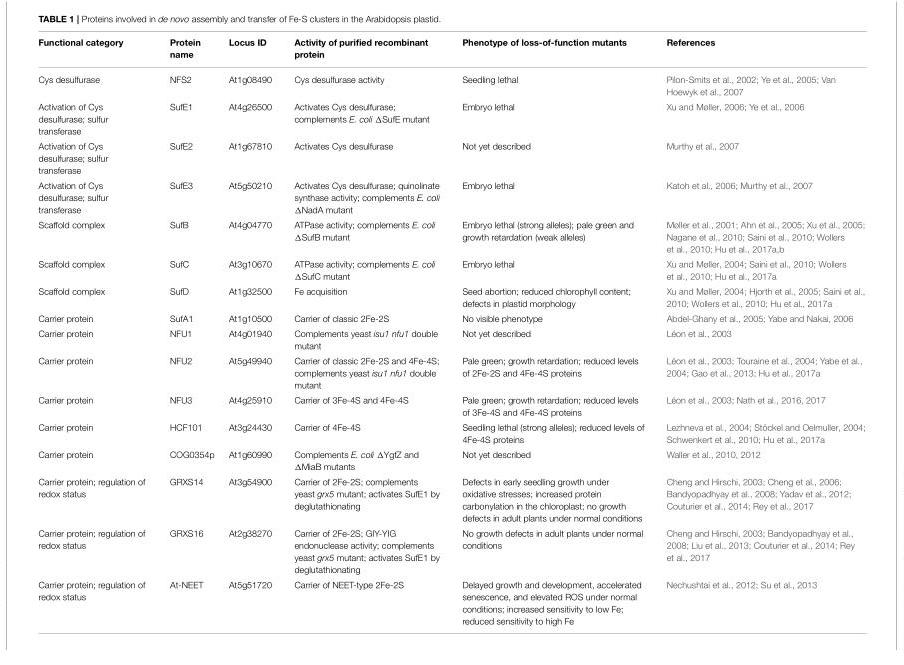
<table><thead><tr><td>Functional category</td><td>Protein name</td><td>Locus ID</td><td>Activity of purified recombinant protein</td><td>Phenotype of loss-of-function mutants</td><td>References</td></tr></thead><tbody><tr><td>Cys desulfurase</td><td>NFS2</td><td>At1g08490</td><td>Cys desulfurase activity</td><td>Seedling lethal</td><td>Pilon-Smits et al., 2002; Ye et al., 2005; Van Hoewyk et al., 2007</td></tr><tr><td>Activation of Cys desulfurase; sulfur transferase</td><td>SufE1</td><td>At4g26500</td><td>Activates Cys desulfurase; complements E. coli ΔSufE mutant</td><td>Embryo lethal</td><td>Xu and Møller, 2006; Ye et al., 2006</td></tr><tr><td>Activation of Cys desulfurase; sulfur transferase</td><td>SufE2</td><td>At1g67810</td><td>Activates Cys desulfurase</td><td>Not yet described</td><td>Murthy et al., 2007</td></tr><tr><td>Activation of Cys desulfurase; sulfur transferase</td><td>SufE3</td><td>At5g50210</td><td>Activates Cys desulfurase; quinolinate synthase activity; complements E. coli ΔNadA mutant</td><td>Embryo lethal</td><td>Katoh et al., 2006; Murthy et al., 2007</td></tr><tr><td>Scaffold complex</td><td>SufB</td><td>At4g04770</td><td>ATPase activity; complements E. coli ΔSufB mutant</td><td>Embryo lethal (strong alleles); pale green and growth retardation (weak alleles)</td><td>Møller et al., 2001; Ahn et al., 2005; Xu et al., 2005; Nagane et al., 2010; Saini et al., 2010; Wollers et al., 2010; Hu et al., 2017a,b</td></tr><tr><td>Scaffold complex</td><td>SufC</td><td>At3g10670</td><td>ATPase activity; complements E. coli ΔSufC mutant</td><td>Embryo lethal</td><td>Xu and Møller, 2004; Saini et al., 2010; Wollers et al., 2010; Hu et al., 2017a</td></tr><tr><td>Scaffold complex</td><td>SufD</td><td>At1g32500</td><td>Fe acquisition</td><td>Seed abortion; reduced chlorophyll content; defects in plastid morphology</td><td>Xu and Møller, 2004; Hjorth et al., 2005; Saini et al., 2010; Wollers et al., 2010; Hu et al., 2017a</td></tr><tr><td>Carrier protein</td><td>SufA1</td><td>At1g10500</td><td>Carrier of classic 2Fe-2S</td><td>No visible phenotype</td><td>Abdel-Ghany et al., 2005; Yabe and Nakai, 2006</td></tr><tr><td>Carrier protein</td><td>NFU1</td><td>At4g01940</td><td>Complements yeast isu1 nfu1 double mutant</td><td>Not yet described</td><td>Léon et al., 2003</td></tr><tr><td>Carrier protein</td><td>NFU2</td><td>At5g49940</td><td>Carrier of classic 2Fe-2S and 4Fe-4S; complements yeast isu1 nfu1 double mutant</td><td>Pale green; growth retardation; reduced levels of 2Fe-2S and 4Fe-4S proteins</td><td>Léon et al., 2003; Touraine et al., 2004; Yabe et al., 2004; Gao et al., 2013; Hu et al., 2017a</td></tr><tr><td>Carrier protein</td><td>NFU3</td><td>At4g25910</td><td>Carrier of 3Fe-4S and 4Fe-4S</td><td>Pale green; growth retardation; reduced levels of 3Fe-4S and 4Fe-4S proteins</td><td>Léon et al., 2003; Nath et al., 2016, 2017</td></tr><tr><td>Carrier protein</td><td>HCF101</td><td>At3g24430</td><td>Carrier of 4Fe-4S</td><td>Seedling lethal (strong alleles); reduced levels of 4Fe-4S proteins</td><td>Lezhneva et al., 2004; Stöckel and Oelmuller, 2004; Schwenkert et al., 2010; Hu et al., 2017a</td></tr><tr><td>Carrier protein</td><td>COG0354p</td><td>At1g60990</td><td>Complements E. coli ΔYgfZ and ΔMiaB mutants</td><td>Not yet described</td><td>Waller et al., 2010, 2012</td></tr><tr><td>Carrier protein; regulation of redox status</td><td>GRXS14</td><td>At3g54900</td><td>Carrier of 2Fe-2S; complements yeast grx5 mutant; activates SufE1 by deglutathionating</td><td>Defects in early seedling growth under oxidative stresses; increased protein carbonylation in the chloroplast; no growth defects in adult plants under normal conditions</td><td>Cheng and Hirschi, 2003; Cheng et al., 2006; Bandyopadhyay et al., 2008; Yadav et al., 2012; Couturier et al., 2014; Rey et al., 2017</td></tr><tr><td>Carrier protein; regulation of redox status</td><td>GRXS16</td><td>At2g38270</td><td>Carrier of 2Fe-2S; GIY-YIG endonuclease activity; complements yeast grx5 mutant; activates SufE1 by deglutathionating</td><td>No growth defects in adult plants under normal conditions</td><td>Cheng and Hirschi, 2003; Bandyopadhyay et al., 2008; Liu et al., 2013; Couturier et al., 2014; Rey et al., 2017</td></tr><tr><td>Carrier protein; regulation of redox status</td><td>At-NEET</td><td>At5g51720</td><td>Carrier of NEET-type 2Fe-2S</td><td>Delayed growth and development, accelerated senescence, and elevated ROS under normal conditions; increased sensitivity to low Fe; reduced sensitivity to high Fe</td><td>Nechushtai et al., 2012; Su et al., 2013</td></tr></tbody></table>